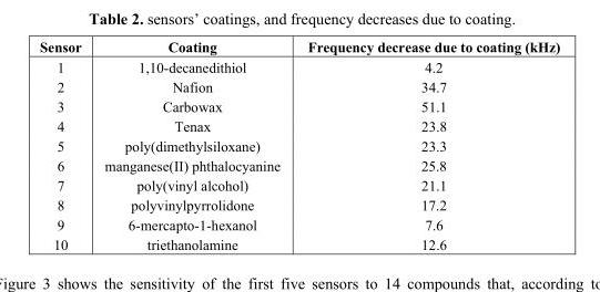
<table><thead><tr><td>Sensor</td><td>Coating</td><td>Frequency decrease due to coating (kHz)</td></tr></thead><tbody><tr><td>1</td><td>1,10-decanedithiol</td><td>4.2</td></tr><tr><td>2</td><td>Nafion</td><td>34.7</td></tr><tr><td>3</td><td>Carbowax</td><td>51.1</td></tr><tr><td>4</td><td>Tenax</td><td>23.8</td></tr><tr><td>5</td><td>poly(dimethylsiloxane)</td><td>23.3</td></tr><tr><td>6</td><td>manganese(II) phthalocyanine</td><td>25.8</td></tr><tr><td>7</td><td>poly(vinyl alcohol)</td><td>21.1</td></tr><tr><td>8</td><td>polyvinylpyrrolidone</td><td>17.2</td></tr><tr><td>9</td><td>6-mercapto-1-hexanol</td><td>7.6</td></tr><tr><td>10</td><td>triethanolamine</td><td>12.6</td></tr></tbody></table>